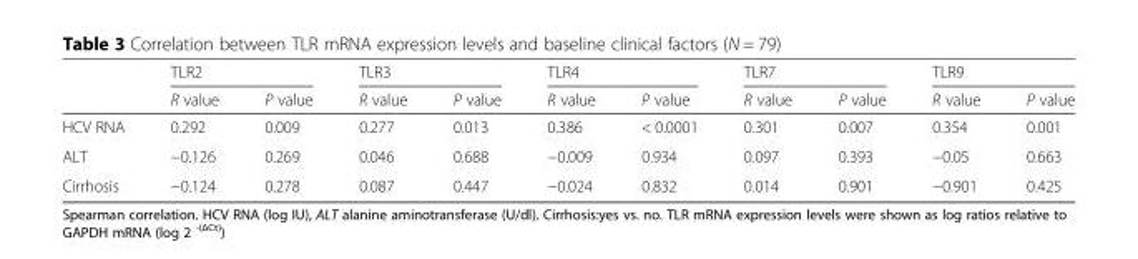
<table><thead><tr><td rowspan="2"></td><td colspan="2">TLR2</td><td colspan="2">TLR3</td><td colspan="2">TLR4</td><td colspan="2">TLR7</td><td colspan="2">TLR9</td></tr><tr><td>R value</td><td>P value</td><td>R value</td><td>P value</td><td>R value</td><td>P value</td><td>R value</td><td>P value</td><td>R value</td><td>P value</td></tr></thead><tbody><tr><td>HCV RNA</td><td>0.292</td><td>0.009</td><td>0.277</td><td>0.013</td><td>0.386</td><td>&lt; 0.0001</td><td>0.301</td><td>0.007</td><td>0.354</td><td>0.001</td></tr><tr><td>ALT</td><td>−0.126</td><td>0.269</td><td>0.046</td><td>0.688</td><td>−0.009</td><td>0.934</td><td>0.097</td><td>0.393</td><td>−0.05</td><td>0.663</td></tr><tr><td>Cirrhosis</td><td>−0.124</td><td>0.278</td><td>0.087</td><td>0.447</td><td>−0.024</td><td>0.832</td><td>0.014</td><td>0.901</td><td>−0.901</td><td>0.425</td></tr></tbody></table>